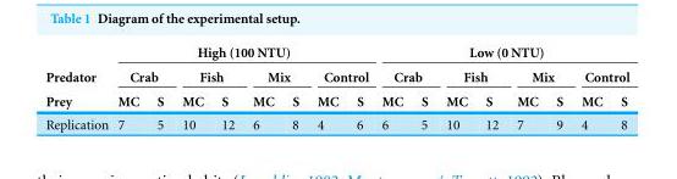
<table><thead><tr><td rowspan="3">Predator Prey</td><td colspan="8">High (100 NTU)</td><td colspan="8">Low (0 NTU)</td></tr><tr><td colspan="2">Crab</td><td colspan="2">Fish</td><td colspan="2">Mix</td><td colspan="2">Control</td><td colspan="2">Crab</td><td colspan="2">Fish</td><td colspan="2">Mix</td><td colspan="2">Control</td></tr><tr><td>MC</td><td>S</td><td>MC</td><td>S</td><td>MC</td><td>S</td><td>MC</td><td>S</td><td>MC</td><td>S</td><td>MC</td><td>S</td><td>MC</td><td>S</td><td>MC</td><td>S</td></tr></thead><tbody><tr><td>Replication</td><td>7</td><td>5</td><td>10</td><td>12</td><td>6</td><td>8</td><td>4</td><td>6</td><td>6</td><td>5</td><td>10</td><td>12</td><td>7</td><td>9</td><td>4</td><td>8</td></tr></tbody></table>